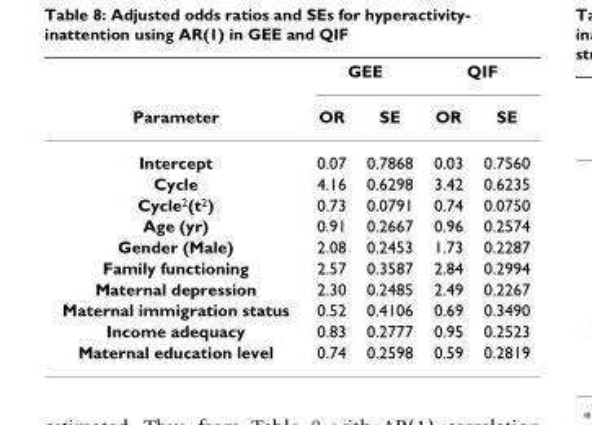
<table><thead><tr><td rowspan="2">Parameter</td><td colspan="2">GEE</td><td colspan="2">QIF</td></tr><tr><td>OR</td><td>SE</td><td>OR</td><td>SE</td></tr></thead><tbody><tr><td>Intercept</td><td>0.07</td><td>0.7868</td><td>0.03</td><td>0.7560</td></tr><tr><td>Cycle</td><td>4.16</td><td>0.6298</td><td>3.42</td><td>0.6235</td></tr><tr><td>Cycle<sup>2</sup>(t<sup>2</sup>)</td><td>0.73</td><td>0.0791</td><td>0.74</td><td>0.0750</td></tr><tr><td>Age (yr)</td><td>0.91</td><td>0.2667</td><td>0.96</td><td>0.2574</td></tr><tr><td>Gender (Male)</td><td>2.08</td><td>0.2453</td><td>1.73</td><td>0.2287</td></tr><tr><td>Family functioning</td><td>2.57</td><td>0.3587</td><td>2.84</td><td>0.2994</td></tr><tr><td>Maternal depression</td><td>2.30</td><td>0.2485</td><td>2.49</td><td>0.2267</td></tr><tr><td>Maternal immigration status</td><td>0.52</td><td>0.4106</td><td>0.69</td><td>0.3490</td></tr><tr><td>Income adequacy</td><td>0.83</td><td>0.2777</td><td>0.95</td><td>0.2523</td></tr><tr><td>Maternal education level</td><td>0.74</td><td>0.2598</td><td>0.59</td><td>0.2819</td></tr></tbody></table>